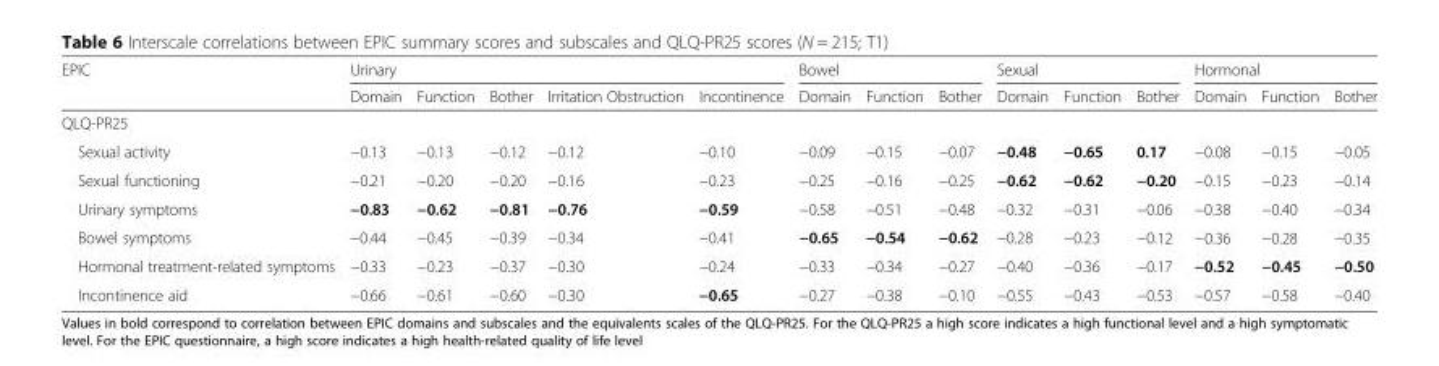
<table><thead><tr><td rowspan="2">EPIC</td><td colspan="5">Urinary</td><td colspan="3">Bowel</td><td colspan="3">Sexual</td><td colspan="3">Hormonal</td></tr><tr><td>Domain</td><td>Function</td><td>Bother</td><td>Irritation Obstruction</td><td>Incontinence</td><td>Domain</td><td>Function</td><td>Bother</td><td>Domain</td><td>Function</td><td>Bother</td><td>Domain</td><td>Function</td><td>Bother</td></tr></thead><tbody><tr><td colspan="15">QLQ-PR25</td></tr><tr><td>Sexual activity</td><td>−0.13</td><td>−0.13</td><td>−0.12</td><td>−0.12</td><td>−0.10</td><td>−0.09</td><td>−0.15</td><td>−0.07</td><td>−0.48</td><td>−0.65</td><td>0.17</td><td>−0.08</td><td>−0.15</td><td>−0.05</td></tr><tr><td>Sexual functioning</td><td>−0.21</td><td>−0.20</td><td>−0.20</td><td>−0.16</td><td>−0.23</td><td>−0.25</td><td>−0.16</td><td>−0.25</td><td>−0.62</td><td>−0.62</td><td>−0.20</td><td>−0.15</td><td>−0.23</td><td>−0.14</td></tr><tr><td>Urinary symptoms</td><td>−0.83</td><td>−0.62</td><td>−0.81</td><td>−0.76</td><td>−0.59</td><td>−0.58</td><td>−0.51</td><td>−0.48</td><td>−0.32</td><td>−0.31</td><td>−0.06</td><td>−0.38</td><td>−0.40</td><td>−0.34</td></tr><tr><td>Bowel symptoms</td><td>−0.44</td><td>−0.45</td><td>−0.39</td><td>−0.34</td><td>−0.41</td><td>−0.65</td><td>−0.54</td><td>−0.62</td><td>−0.28</td><td>−0.23</td><td>−0.12</td><td>−0.36</td><td>−0.28</td><td>−0.35</td></tr><tr><td>Hormonal treatment-related symptoms</td><td>−0.33</td><td>−0.23</td><td>−0.37</td><td>−0.30</td><td>−0.24</td><td>−0.33</td><td>−0.34</td><td>−0.27</td><td>−0.40</td><td>−0.36</td><td>−0.17</td><td>−0.52</td><td>−0.45</td><td>−0.50</td></tr><tr><td>Incontinence aid</td><td>−0.66</td><td>−0.61</td><td>−0.60</td><td>−0.30</td><td>−0.65</td><td>−0.27</td><td>−0.38</td><td>−0.10</td><td>−0.55</td><td>−0.43</td><td>−0.53</td><td>−0.57</td><td>−0.58</td><td>−0.40</td></tr></tbody></table>